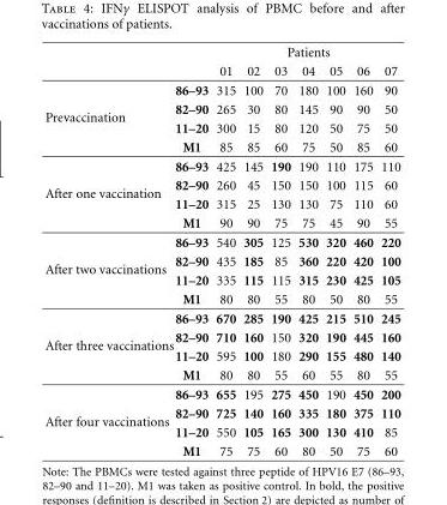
<table><thead><tr><td rowspan="2"></td><td rowspan="2"></td><td colspan="7">Patients</td></tr><tr><td>01</td><td>02</td><td>03</td><td>04</td><td>05</td><td>06</td><td>07</td></tr></thead><tbody><tr><td rowspan="4">Prevaccination</td><td>86–93</td><td>315</td><td>100</td><td>70</td><td>180</td><td>100</td><td>160</td><td>90</td></tr><tr><td>82–90</td><td>265</td><td>30</td><td>80</td><td>145</td><td>90</td><td>90</td><td>50</td></tr><tr><td>11–20</td><td>300</td><td>15</td><td>80</td><td>120</td><td>50</td><td>75</td><td>50</td></tr><tr><td>M1</td><td>85</td><td>85</td><td>60</td><td>75</td><td>50</td><td>85</td><td>60</td></tr><tr><td rowspan="4">After one vaccination</td><td>86–93</td><td>425</td><td>145</td><td>190</td><td>190</td><td>110</td><td>175</td><td>110</td></tr><tr><td>82–90</td><td>260</td><td>45</td><td>150</td><td>150</td><td>100</td><td>115</td><td>60</td></tr><tr><td>11–20</td><td>315</td><td>25</td><td>130</td><td>130</td><td>75</td><td>110</td><td>60</td></tr><tr><td>M1</td><td>90</td><td>90</td><td>75</td><td>75</td><td>45</td><td>90</td><td>55</td></tr><tr><td rowspan="4">After two vaccinations</td><td>86–93</td><td>540</td><td>305</td><td>125</td><td>530</td><td>320</td><td>460</td><td>220</td></tr><tr><td>82–90</td><td>435</td><td>185</td><td>85</td><td>360</td><td>220</td><td>420</td><td>100</td></tr><tr><td>11–20</td><td>335</td><td>115</td><td>115</td><td>315</td><td>230</td><td>425</td><td>105</td></tr><tr><td>M1</td><td>80</td><td>80</td><td>55</td><td>80</td><td>50</td><td>80</td><td>55</td></tr><tr><td rowspan="4">After three vaccinations</td><td>86–93</td><td>670</td><td>285</td><td>190</td><td>425</td><td>215</td><td>510</td><td>245</td></tr><tr><td>82–90</td><td>710</td><td>160</td><td>150</td><td>320</td><td>190</td><td>445</td><td>160</td></tr><tr><td>11–20</td><td>595</td><td>100</td><td>180</td><td>290</td><td>155</td><td>480</td><td>140</td></tr><tr><td>M1</td><td>80</td><td>80</td><td>55</td><td>60</td><td>55</td><td>80</td><td>55</td></tr><tr><td rowspan="4">After four vaccinations</td><td>86–93</td><td>655</td><td>195</td><td>275</td><td>450</td><td>190</td><td>450</td><td>200</td></tr><tr><td>82–90</td><td>725</td><td>140</td><td>160</td><td>335</td><td>180</td><td>375</td><td>110</td></tr><tr><td>11–20</td><td>550</td><td>105</td><td>165</td><td>300</td><td>130</td><td>410</td><td>85</td></tr><tr><td>M1</td><td>75</td><td>75</td><td>60</td><td>80</td><td>50</td><td>75</td><td>60</td></tr></tbody></table>